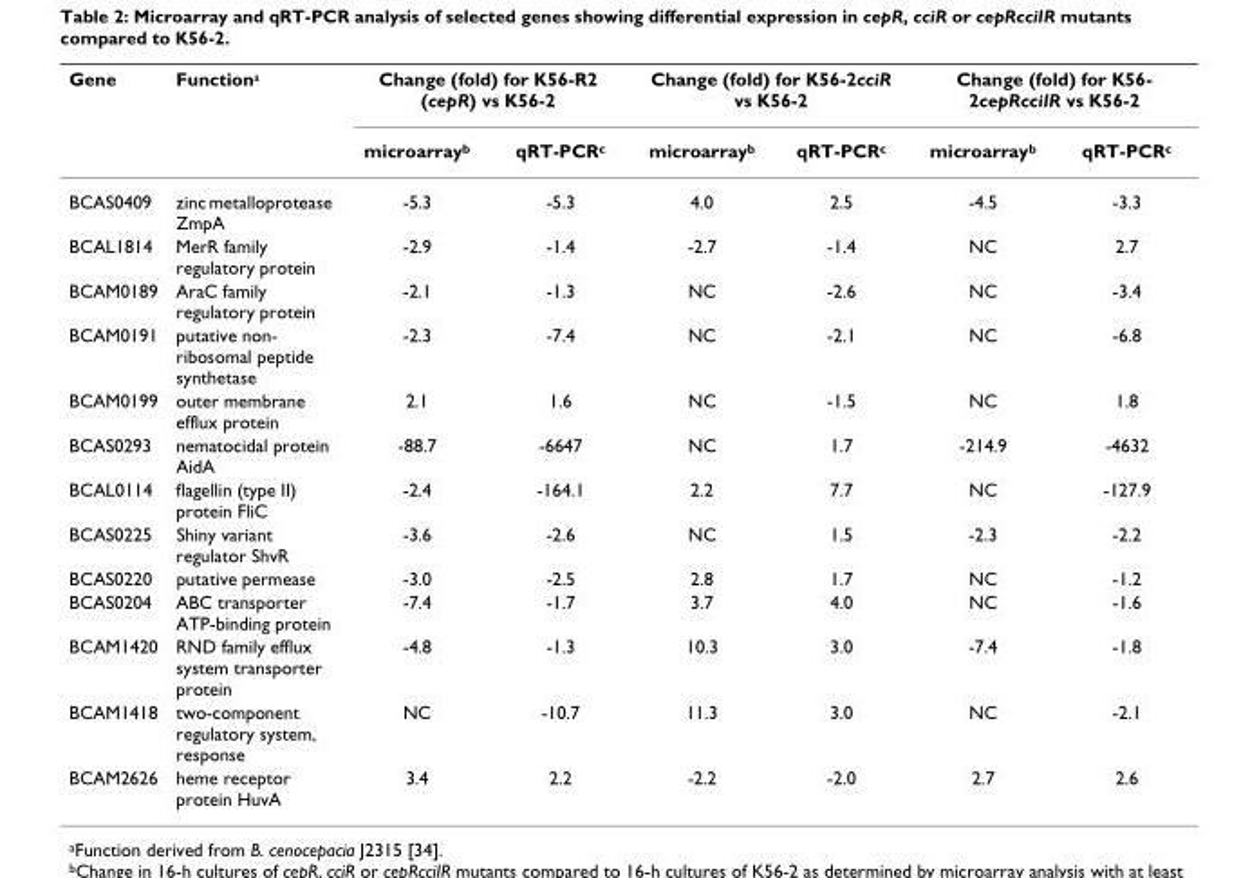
<table><thead><tr><td rowspan="2">Gene</td><td rowspan="2">Function<sup>a</sup></td><td colspan="2">Change (fold) for K56-R2 (cepR) vs K56-2</td><td colspan="2">Change (fold) for K56-2cciR vs K56-2</td><td colspan="2">Change (fold) for K56- 2cepRcciIR vs K56-2</td></tr><tr><td>microarray<sup>b</sup></td><td>qRT-PCR<sup>c</sup></td><td>microarray<sup>b</sup></td><td>qRT-PCR<sup>c</sup></td><td>microarray<sup>b</sup></td><td>qRT-PCR<sup>c</sup></td></tr></thead><tbody><tr><td>BCAS0409</td><td>zinc metalloprotease ZmpA</td><td>-5.3</td><td>-5.3</td><td>4.0</td><td>2.5</td><td>-4.5</td><td>-3.3</td></tr><tr><td>BCAL1814</td><td>MerR family regulatory protein</td><td>-2.9</td><td>-1.4</td><td>-2.7</td><td>-1.4</td><td>NC</td><td>2.7</td></tr><tr><td>BCAM0189</td><td>AraC family regulatory protein</td><td>-2.1</td><td>-1.3</td><td>NC</td><td>-2.6</td><td>NC</td><td>-3.4</td></tr><tr><td>BCAM0191</td><td>putative non- ribosomal peptide synthetase</td><td>-2.3</td><td>-7.4</td><td>NC</td><td>-2.1</td><td>NC</td><td>-6.8</td></tr><tr><td>BCAM0199</td><td>outer membrane efflux protein</td><td>2.1</td><td>1.6</td><td>NC</td><td>-1.5</td><td>NC</td><td>1.8</td></tr><tr><td>BCAS0293</td><td>nematocidal protein AidA</td><td>-88.7</td><td>-6647</td><td>NC</td><td>1.7</td><td>-214.9</td><td>-4632</td></tr><tr><td>BCAL0114</td><td>flagellin (type II) protein FliC</td><td>-2.4</td><td>-164.1</td><td>2.2</td><td>7.7</td><td>NC</td><td>-127.9</td></tr><tr><td>BCAS0225</td><td>Shiny variant regulator ShvR</td><td>-3.6</td><td>-2.6</td><td>NC</td><td>1.5</td><td>-2.3</td><td>-2.2</td></tr><tr><td>BCAS0220</td><td>putative permease</td><td>-3.0</td><td>-2.5</td><td>2.8</td><td>1.7</td><td>NC</td><td>-1.2</td></tr><tr><td>BCAS0204</td><td>ABC transporter ATP-binding protein</td><td>-7.4</td><td>-1.7</td><td>3.7</td><td>4.0</td><td>NC</td><td>-1.6</td></tr><tr><td>BCAM1420</td><td>RND family efflux system transporter protein</td><td>-4.8</td><td>-1.3</td><td>10.3</td><td>3.0</td><td>-7.4</td><td>-1.8</td></tr><tr><td>BCAM1418</td><td>two-component regulatory system, response</td><td>NC</td><td>-10.7</td><td>11.3</td><td>3.0</td><td>NC</td><td>-2.1</td></tr><tr><td>BCAM2626</td><td>heme receptor protein HuvA</td><td>3.4</td><td>2.2</td><td>-2.2</td><td>-2.0</td><td>2.7</td><td>2.6</td></tr></tbody></table>